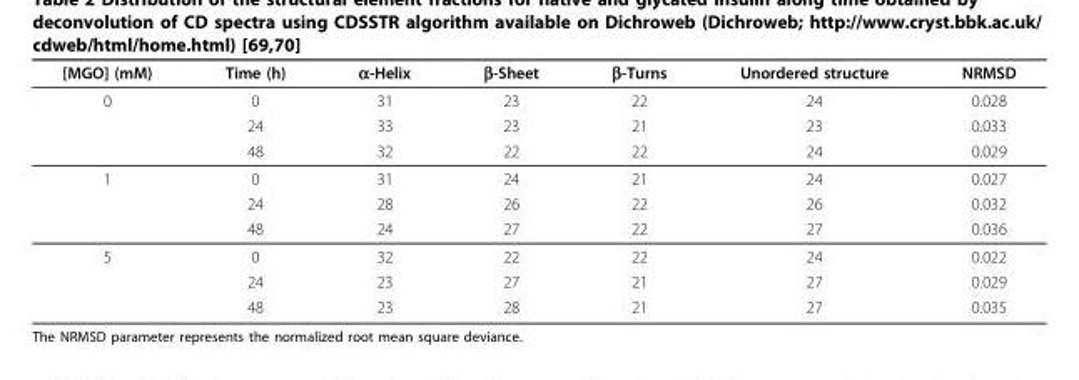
<table><thead><tr><td>[MGO] (mM)</td><td>Time (h)</td><td>α-Helix</td><td>β-Sheet</td><td>β-Turns</td><td>Unordered structure</td><td>NRMSD</td></tr></thead><tbody><tr><td rowspan="3">0</td><td>0</td><td>31</td><td>23</td><td>22</td><td>24</td><td>0.028</td></tr><tr><td>24</td><td>33</td><td>23</td><td>21</td><td>23</td><td>0.033</td></tr><tr><td>48</td><td>32</td><td>22</td><td>22</td><td>24</td><td>0.029</td></tr><tr><td rowspan="3">1</td><td>0</td><td>31</td><td>24</td><td>21</td><td>24</td><td>0.027</td></tr><tr><td>24</td><td>28</td><td>26</td><td>22</td><td>26</td><td>0.032</td></tr><tr><td>48</td><td>24</td><td>27</td><td>22</td><td>27</td><td>0.036</td></tr><tr><td rowspan="3">5</td><td>0</td><td>32</td><td>22</td><td>22</td><td>24</td><td>0.022</td></tr><tr><td>24</td><td>23</td><td>27</td><td>21</td><td>27</td><td>0.029</td></tr><tr><td>48</td><td>23</td><td>28</td><td>21</td><td>27</td><td>0.035</td></tr></tbody></table>